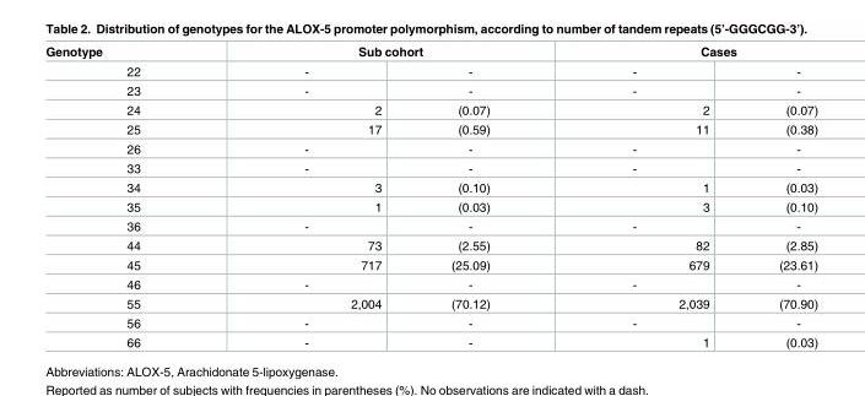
<table><thead><tr><td rowspan="2">Genotype 22</td><td colspan="2">Sub cohort</td><td colspan="2">Cases</td></tr><tr><td>-</td><td>-</td><td>-</td><td>-</td></tr></thead><tbody><tr><td>23</td><td>-</td><td>-</td><td>-</td><td>-</td></tr><tr><td>24</td><td>2</td><td>(0.07)</td><td>2</td><td>(0.07)</td></tr><tr><td>25</td><td>17</td><td>(0.59)</td><td>11</td><td>(0.38)</td></tr><tr><td>26</td><td>-</td><td>-</td><td>-</td><td>-</td></tr><tr><td>33</td><td>-</td><td>-</td><td>-</td><td>-</td></tr><tr><td>34</td><td>3</td><td>(0.10)</td><td>1</td><td>(0.03)</td></tr><tr><td>35</td><td>1</td><td>(0.03)</td><td>3</td><td>(0.10)</td></tr><tr><td>36</td><td>-</td><td>-</td><td>-</td><td>-</td></tr><tr><td>44</td><td>73</td><td>(2.55)</td><td>82</td><td>(2.85)</td></tr><tr><td>45</td><td>717</td><td>(25.09)</td><td>679</td><td>(23.61)</td></tr><tr><td>46</td><td>-</td><td>-</td><td>-</td><td>-</td></tr><tr><td>55</td><td>2,004</td><td>(70.12)</td><td>2,039</td><td>(70.90)</td></tr><tr><td>56</td><td>-</td><td>-</td><td>-</td><td>-</td></tr><tr><td>66</td><td>-</td><td>-</td><td>1</td><td>(0.03)</td></tr></tbody></table>